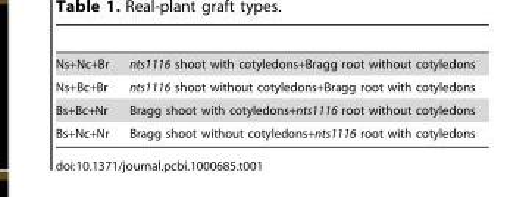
<table><tbody><tr><td>Ns+Nc+Br</td><td>nts1116 shoot with cotyledons+Bragg root without cotyledons</td></tr><tr><td>Ns+Bc+Br</td><td>nts1116 shoot without cotyledons+Bragg root with cotyledons</td></tr><tr><td>Bs+Bc+Nr</td><td>Bragg shoot with cotyledons+nts1116 root without cotyledons</td></tr><tr><td>Bs+Nc+Nr</td><td>Bragg shoot without cotyledons+nts1116 root with cotyledons</td></tr></tbody></table>